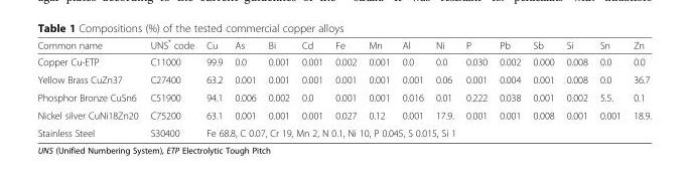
<table><thead><tr><td>Common name</td><td>UNS* code</td><td>Cu</td><td>As</td><td>Bi</td><td>Cd</td><td>Fe</td><td>Mn</td><td>Al</td><td>Ni</td><td>P</td><td>Pb</td><td>Sb</td><td>Si</td><td>Sn</td><td>Zn</td></tr></thead><tbody><tr><td>Copper Cu-ETP</td><td>C11000</td><td>99.9</td><td>0.0</td><td>0.001</td><td>0.001</td><td>0.002</td><td>0.001</td><td>0.0</td><td>0.0</td><td>0.030</td><td>0.002</td><td>0.000</td><td>0.008</td><td>0.0</td><td>0.0</td></tr><tr><td>Yellow Brass CuZn37</td><td>C27400</td><td>63.2</td><td>0.001</td><td>0.001</td><td>0.001</td><td>0.001</td><td>0.001</td><td>0.001</td><td>0.06</td><td>0.001</td><td>0.004</td><td>0.001</td><td>0.008</td><td>0.0</td><td>36.7</td></tr><tr><td>Phosphor Bronze CuSn6</td><td>C51900</td><td>94.1</td><td>0.006</td><td>0.002</td><td>0.0</td><td>0.001</td><td>0.001</td><td>0.016</td><td>0.01</td><td>0.222</td><td>0.038</td><td>0.001</td><td>0.002</td><td>5.5.</td><td>0.1</td></tr><tr><td>Nickel silver CuNi18Zn20</td><td>C75200</td><td>63.1</td><td>0.001</td><td>0.001</td><td>0.001</td><td>0.027</td><td>0.12</td><td>0.001</td><td>17.9.</td><td>0.001</td><td>0.001</td><td>0.008</td><td>0.001</td><td>0.001</td><td>18.9.</td></tr><tr><td>Stainless Steel</td><td>S30400</td><td colspan="14">Fe 68.8, C 0.07, Cr 19, Mn 2, N 0.1, Ni 10, P 0.045, S 0.015, Si 1</td></tr></tbody></table>